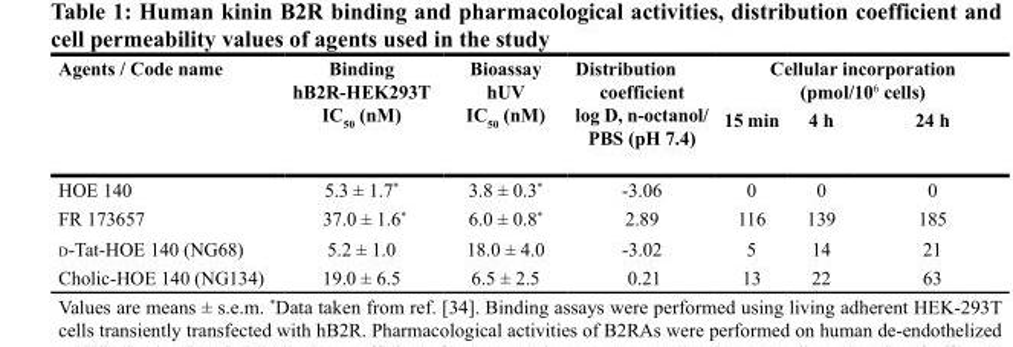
<table><thead><tr><td rowspan="2">Agents / Code name</td><td rowspan="2">Binding hB2R-HEK293T IC<sub>50</sub> (nM)</td><td rowspan="2">Bioassay hUV IC<sub>50</sub> (nM)</td><td rowspan="2">Distribution coefficient log D, n-octanol/ PBS (pH 7.4)</td><td colspan="3">Cellular incorporation (pmol/10<sup>6</sup> cells)</td></tr><tr><td>15 min</td><td>4 h</td><td>24 h</td></tr></thead><tbody><tr><td>HOE 140</td><td>5.3 ± 1.7*</td><td>3.8 ± 0.3*</td><td>-3.06</td><td>0</td><td>0</td><td>0</td></tr><tr><td>FR 173657</td><td>37.0 ± 1.6*</td><td>6.0 ± 0.8*</td><td>2.89</td><td>116</td><td>139</td><td>185</td></tr><tr><td>d-Tat-HOE 140 (NG68)</td><td>5.2 ± 1.0</td><td>18.0 ± 4.0</td><td>-3.02</td><td>5</td><td>14</td><td>21</td></tr><tr><td>Cholic-HOE 140 (NG134)</td><td>19.0 ± 6.5</td><td>6.5 ± 2.5</td><td>0.21</td><td>13</td><td>22</td><td>63</td></tr></tbody></table>